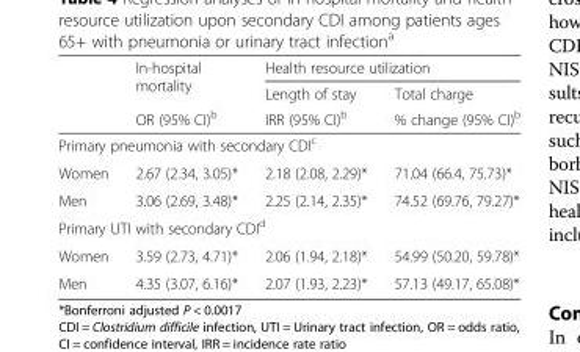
<table><thead><tr><td rowspan="3"></td><td rowspan="3">In-hospital mortality OR (95% CI)<sup>b</sup></td><td colspan="2">Health resource utilization</td></tr><tr><td rowspan="2">Length of stay IRR (95% CI)<sup>b</sup></td><td rowspan="2">Total charge % change (95% CI)<sup>b</sup></td></tr><tr></tr></thead><tbody><tr><td colspan="4">Primary pneumonia with secondary CDI<sup>c</sup></td></tr><tr><td>Women</td><td>2.67 (2.34, 3.05)*</td><td>2.18 (2.08, 2.29)*</td><td>71.04 (66.4, 75.73)*</td></tr><tr><td>Men</td><td>3.06 (2.69, 3.48)*</td><td>2.25 (2.14, 2.35)*</td><td>74.52 (69.76, 79.27)*</td></tr><tr><td colspan="4">Primary UTI with secondary CDI<sup>d</sup></td></tr><tr><td>Women</td><td>3.59 (2.73, 4.71)*</td><td>2.06 (1.94, 2.18)*</td><td>54.99 (50.20, 59.78)*</td></tr><tr><td>Men</td><td>4.35 (3.07, 6.16)*</td><td>2.07 (1.93, 2.23)*</td><td>57.13 (49.17, 65.08)*</td></tr></tbody></table>